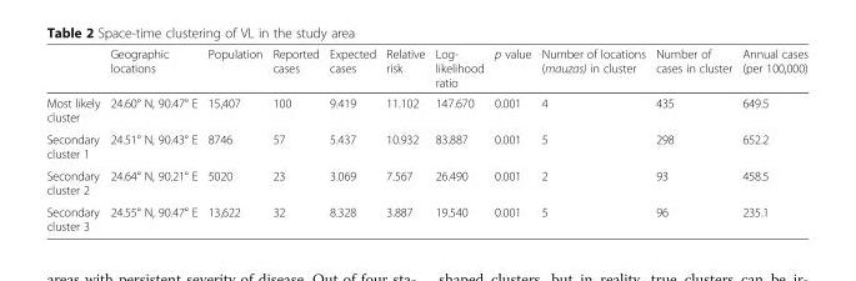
<table><thead><tr><td></td><td>Geographic locations</td><td>Population</td><td>Reported cases</td><td>Expected cases</td><td>Relative risk</td><td>Log- likelihood ratio</td><td>p value</td><td>Number of locations (mauzas) in cluster</td><td>Number of cases in cluster</td><td>Annual cases (per 100,000)</td></tr></thead><tbody><tr><td>Most likely cluster</td><td>24.60° N, 90.47° E</td><td>15,407</td><td>100</td><td>9.419</td><td>11.102</td><td>147.670</td><td>0.001</td><td>4</td><td>435</td><td>649.5</td></tr><tr><td>Secondary cluster 1</td><td>24.51° N, 90.43° E</td><td>8746</td><td>57</td><td>5.437</td><td>10.932</td><td>83.887</td><td>0.001</td><td>5</td><td>298</td><td>652.2</td></tr><tr><td>Secondary cluster 2</td><td>24.64° N, 90.21° E</td><td>5020</td><td>23</td><td>3.069</td><td>7.567</td><td>26.490</td><td>0.001</td><td>2</td><td>93</td><td>458.5</td></tr><tr><td>Secondary cluster 3</td><td>24.55° N, 90.47° E</td><td>13,622</td><td>32</td><td>8.328</td><td>3.887</td><td>19.540</td><td>0.001</td><td>5</td><td>96</td><td>235.1</td></tr></tbody></table>